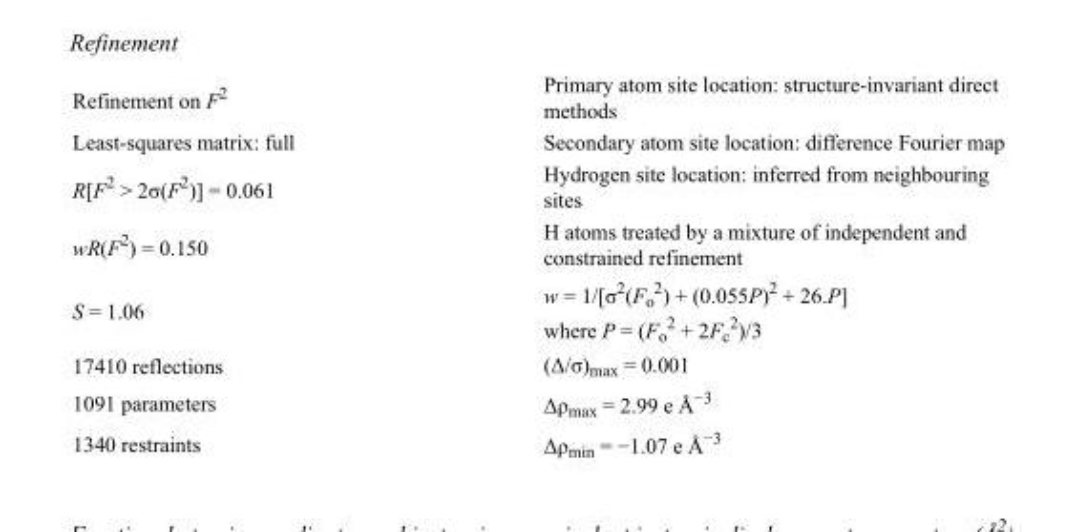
<table><tbody><tr><td>Refinement on F<sup>2</sup></td><td>Primary atom site location: structure-invariant direct methods</td></tr><tr><td>Least-squares matrix: full</td><td>Secondary atom site location: difference Fourier map</td></tr><tr><td>R[F<sup>2</sup> &gt; 2σ(F<sup>2</sup>)] = 0.061</td><td>Hydrogen site location: inferred from neighbouring sites</td></tr><tr><td>wR(F<sup>2</sup>) = 0.150</td><td>H atoms treated by a mixture of independent and constrained refinement</td></tr><tr><td>S = 1.06</td><td>w = 1/[σ<sup>2</sup>(F<sub>o</sub> <sup>2</sup>) + (0.055P)<sup>2</sup> + 26.P] where P = (F<sub>o</sub> <sup>2</sup> + 2F<sub>c</sub> <sup>2</sup>)/3</td></tr><tr><td>17410 reflections</td><td>(Δ/σ)<sub>max</sub> = 0.001</td></tr><tr><td>1091 parameters</td><td>Δρ<sub>max</sub> = 2.99 e Å<sup>−3</sup></td></tr><tr><td>1340 restraints</td><td>Δρmin = −1.07 e Å−3</td></tr></tbody></table>